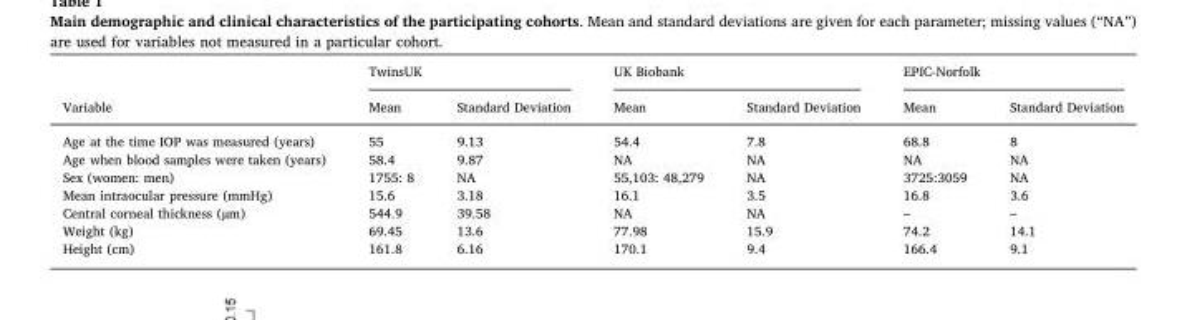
<table><thead><tr><td rowspan="2">Variable</td><td colspan="2">TwinsUK</td><td colspan="2">UK Biobank</td><td colspan="2">EPIC-Norfolk</td></tr><tr><td>Mean</td><td>Standard Deviation</td><td>Mean</td><td>Standard Deviation</td><td>Mean</td><td>Standard Deviation</td></tr></thead><tbody><tr><td>Age at the time IOP was measured (years)</td><td>55</td><td>9.13</td><td>54.4</td><td>7.8</td><td>68.8</td><td>8</td></tr><tr><td>Age when blood samples were taken (years)</td><td>58.4</td><td>9.87</td><td>NA</td><td>NA</td><td>NA</td><td>NA</td></tr><tr><td>Sex (women: men)</td><td>1755: 8</td><td>NA</td><td>55,103: 48,279</td><td>NA</td><td>3725:3059</td><td>NA</td></tr><tr><td>Mean intraocular pressure (mmHg)</td><td>15.6</td><td>3.18</td><td>16.1</td><td>3.5</td><td>16.8</td><td>3.6</td></tr><tr><td>Central corneal thickness (µm)</td><td>544.9</td><td>39.58</td><td>NA</td><td>NA</td><td>–</td><td>–</td></tr><tr><td>Weight (kg)</td><td>69.45</td><td>13.6</td><td>77.98</td><td>15.9</td><td>74.2</td><td>14.1</td></tr><tr><td>Height (cm)</td><td>161.8</td><td>6.16</td><td>170.1</td><td>9.4</td><td>166.4</td><td>9.1</td></tr></tbody></table>